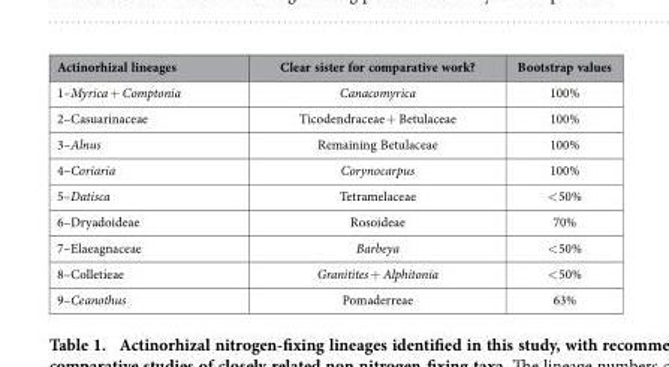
<table><thead><tr><td>Actinorhizal lineages</td><td>Clear sister for comparative work?</td><td>Bootstrap values</td></tr></thead><tbody><tr><td>1–Myrica + Comptonia</td><td>Canacomyrica</td><td>100%</td></tr><tr><td>2–Casuarinaceae</td><td>Ticodendraceae + Betulaceae</td><td>100%</td></tr><tr><td>3–Alnus</td><td>Remaining Betulaceae</td><td>100%</td></tr><tr><td>4–Coriaria</td><td>Corynocarpus</td><td>100%</td></tr><tr><td>5–Datisca</td><td>Tetramelaceae</td><td>&lt; 50%</td></tr><tr><td>6–Dryadoideae</td><td>Rosoideae</td><td>70%</td></tr><tr><td>7–Elaeagnaceae</td><td>Barbeya</td><td>&lt; 50%</td></tr><tr><td>8–Colletieae</td><td>Granitites + Alphitonia</td><td>&lt; 50%</td></tr><tr><td>9–Ceanothus</td><td>Pomaderreae</td><td>63%</td></tr></tbody></table>